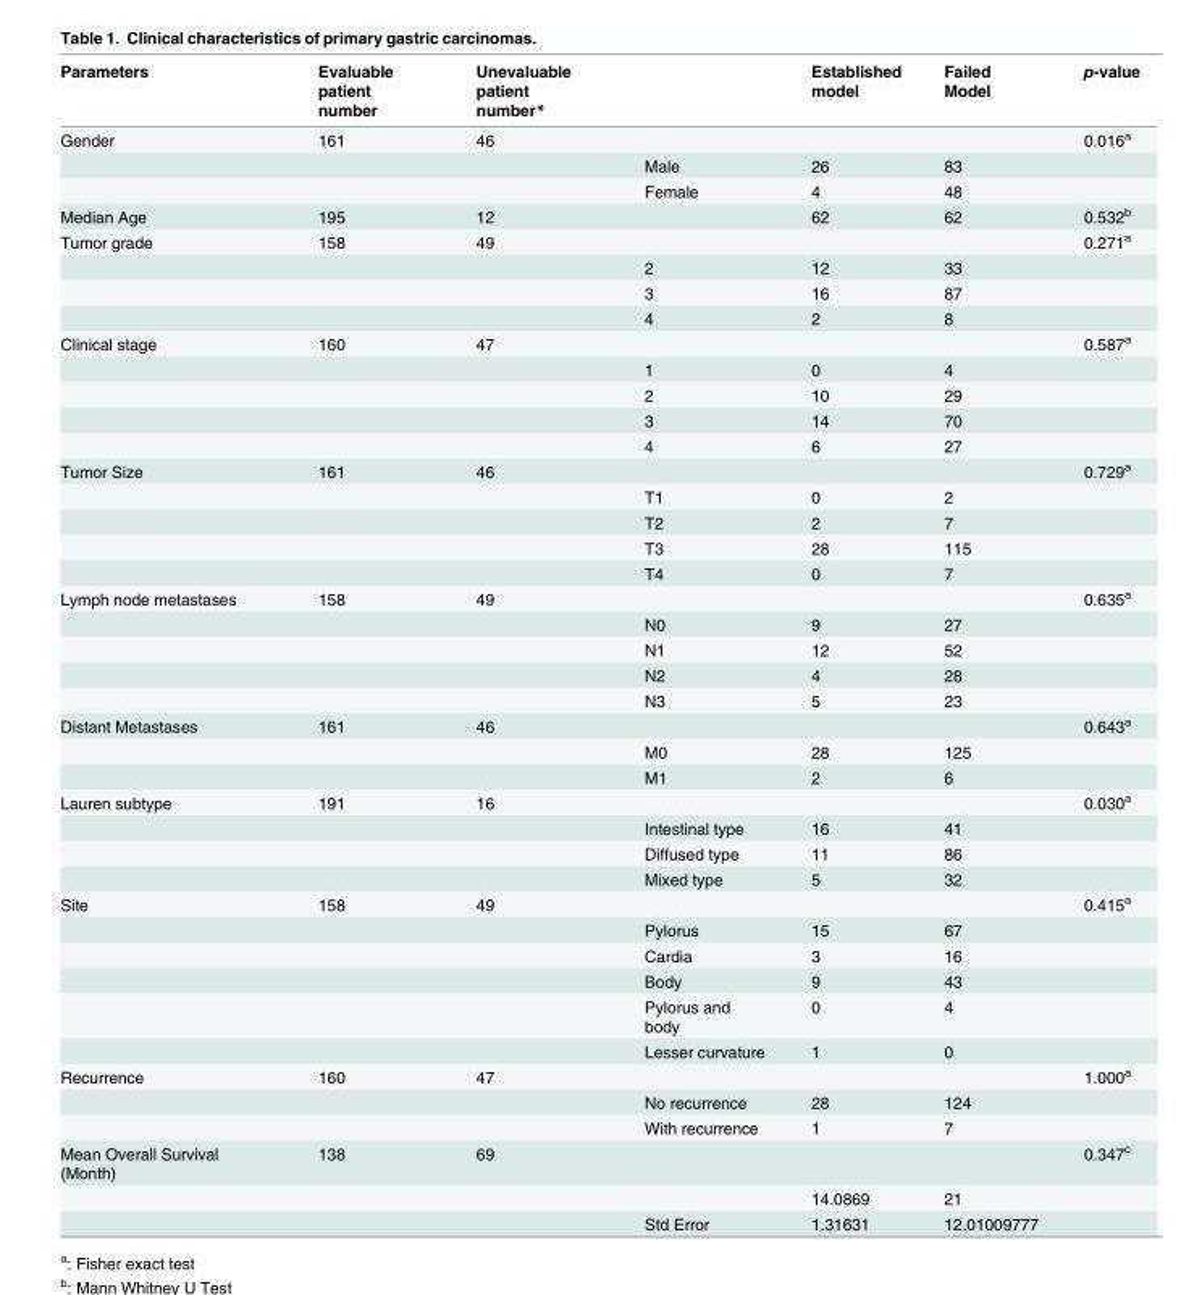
<table><thead><tr><td>Parameters</td><td>Evaluable patient number</td><td>Unevaluable patient number*</td><td></td><td>Established model</td><td>Failed Model</td><td>p-value</td></tr></thead><tbody><tr><td rowspan="3">Gender</td><td>161</td><td>46</td><td></td><td></td><td></td><td>0.016<sup>a</sup></td></tr><tr><td></td><td></td><td>Male</td><td>26</td><td>83</td><td></td></tr><tr><td></td><td></td><td>Female</td><td>4</td><td>48</td><td></td></tr><tr><td>Median Age</td><td>195</td><td>12</td><td></td><td>62</td><td>62</td><td>0.532<sup>b</sup></td></tr><tr><td rowspan="4">Tumor grade</td><td>158</td><td>49</td><td></td><td></td><td></td><td>0.271<sup>a</sup></td></tr><tr><td></td><td></td><td>2</td><td>12</td><td>33</td><td></td></tr><tr><td></td><td></td><td>3</td><td>16</td><td>87</td><td></td></tr><tr><td></td><td></td><td>4</td><td>2</td><td>8</td><td></td></tr><tr><td rowspan="5">Clinical stage</td><td>160</td><td>47</td><td></td><td></td><td></td><td>0.587<sup>a</sup></td></tr><tr><td></td><td></td><td>1</td><td>0</td><td>4</td><td></td></tr><tr><td></td><td></td><td>2</td><td>10</td><td>29</td><td></td></tr><tr><td></td><td></td><td>3</td><td>14</td><td>70</td><td></td></tr><tr><td></td><td></td><td>4</td><td>6</td><td>27</td><td></td></tr><tr><td rowspan="5">Tumor Size</td><td>161</td><td>46</td><td></td><td></td><td></td><td>0.729<sup>a</sup></td></tr><tr><td></td><td></td><td>T1</td><td>0</td><td>2</td><td></td></tr><tr><td></td><td></td><td>T2</td><td>2</td><td>7</td><td></td></tr><tr><td></td><td></td><td>T3</td><td>28</td><td>115</td><td></td></tr><tr><td></td><td></td><td>T4</td><td>0</td><td>7</td><td></td></tr><tr><td rowspan="5">Lymph node metastases</td><td>158</td><td>49</td><td></td><td></td><td></td><td>0.635<sup>a</sup></td></tr><tr><td></td><td></td><td>N0</td><td>9</td><td>27</td><td></td></tr><tr><td></td><td></td><td>N1</td><td>12</td><td>52</td><td></td></tr><tr><td></td><td></td><td>N2</td><td>4</td><td>28</td><td></td></tr><tr><td></td><td></td><td>N3</td><td>5</td><td>23</td><td></td></tr><tr><td rowspan="3">Distant Metastases</td><td>161</td><td>46</td><td></td><td></td><td></td><td>0.643<sup>a</sup></td></tr><tr><td></td><td></td><td>M0</td><td>28</td><td>125</td><td></td></tr><tr><td></td><td></td><td>M1</td><td>2</td><td>6</td><td></td></tr><tr><td rowspan="4">Lauren subtype</td><td>191</td><td>16</td><td></td><td></td><td></td><td>0.030<sup>a</sup></td></tr><tr><td></td><td></td><td>Intestinal type</td><td>16</td><td>41</td><td></td></tr><tr><td></td><td></td><td>Diffused type</td><td>11</td><td>86</td><td></td></tr><tr><td></td><td></td><td>Mixed type</td><td>5</td><td>32</td><td></td></tr><tr><td rowspan="6">Site</td><td>158</td><td>49</td><td></td><td></td><td></td><td>0.415<sup>a</sup></td></tr><tr><td></td><td></td><td>Pylorus</td><td>15</td><td>67</td><td></td></tr><tr><td></td><td></td><td>Cardia</td><td>3</td><td>16</td><td></td></tr><tr><td></td><td></td><td>Body</td><td>9</td><td>43</td><td></td></tr><tr><td></td><td></td><td>Pylorus and body</td><td>0</td><td>4</td><td></td></tr><tr><td></td><td></td><td>Lesser curvature</td><td>1</td><td>0</td><td></td></tr><tr><td rowspan="3">Recurrence</td><td>160</td><td>47</td><td></td><td></td><td></td><td>1.000<sup>a</sup></td></tr><tr><td></td><td></td><td>No recurrence</td><td>28</td><td>124</td><td></td></tr><tr><td></td><td></td><td>With recurrence</td><td>1</td><td>7</td><td></td></tr><tr><td rowspan="3">Mean Overall Survival (Month)</td><td>138</td><td>69</td><td></td><td></td><td></td><td>0.347<sup>c</sup></td></tr><tr><td></td><td></td><td></td><td>14.0869</td><td>21</td><td></td></tr><tr><td></td><td></td><td>Std Error</td><td>1.31631</td><td>12.01009777</td><td></td></tr></tbody></table>